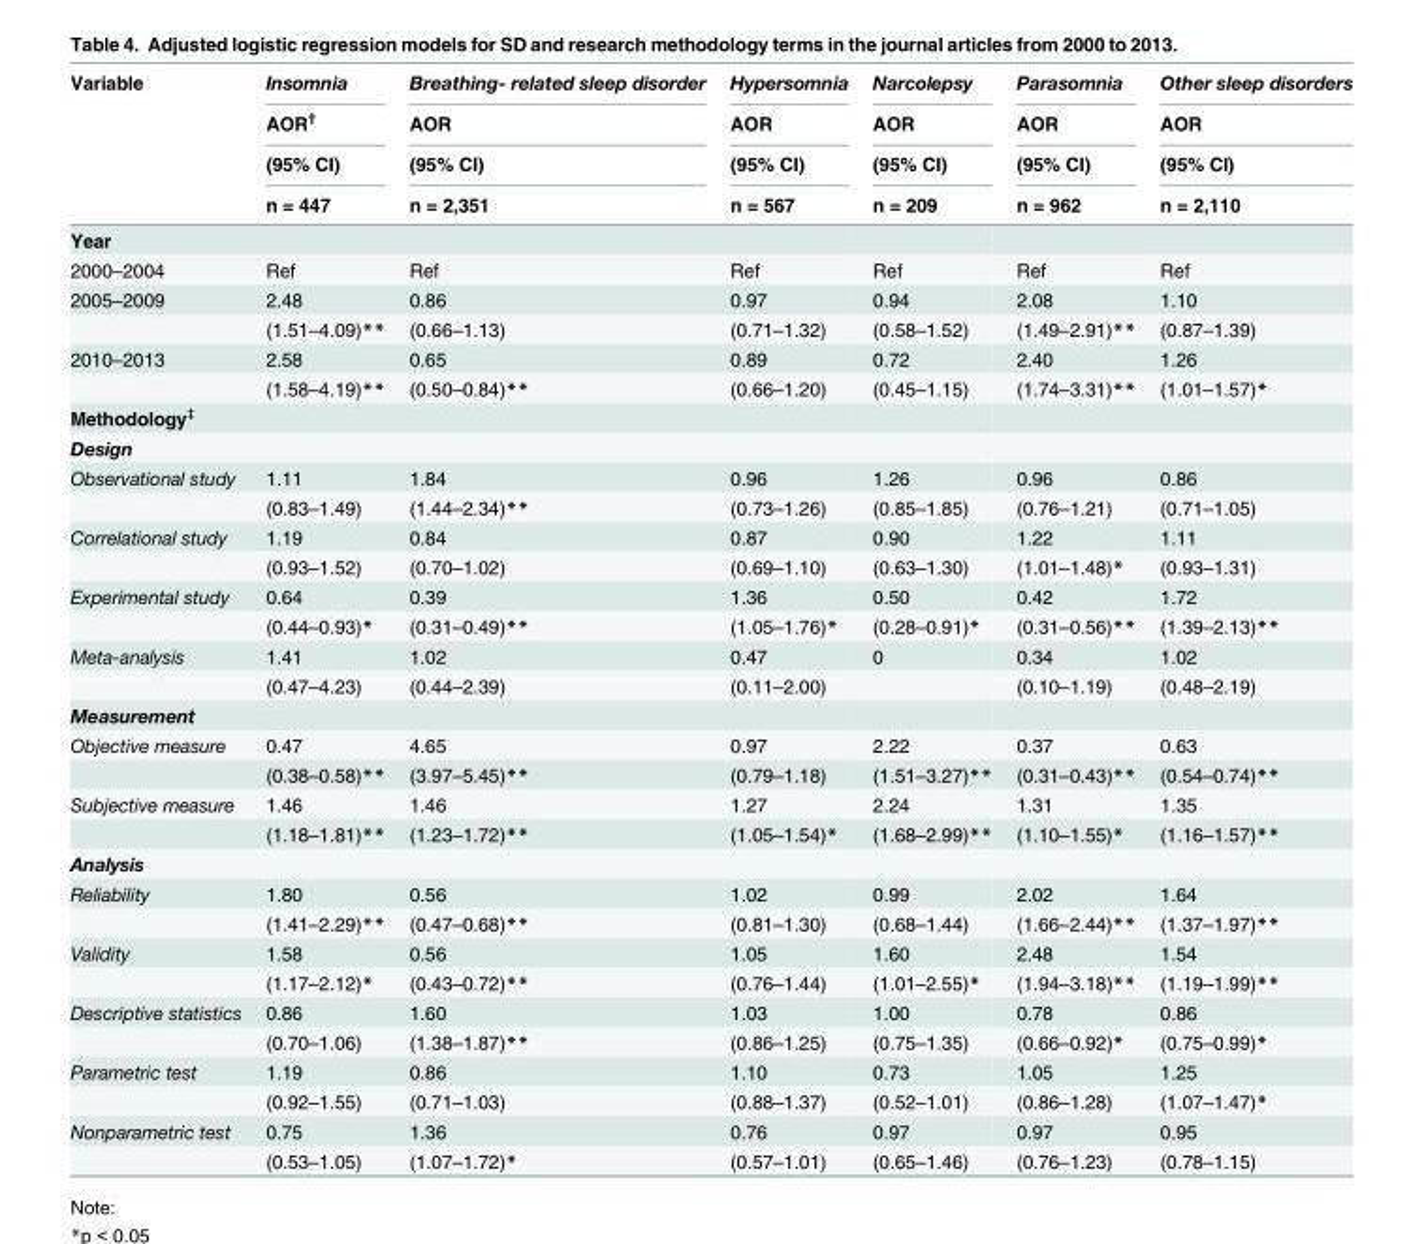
<table><thead><tr><td rowspan="4">Variable</td><td rowspan="4">Insomnia AOR<sup>†</sup> (95% CI) n = 447</td><td rowspan="4">Breathing- related sleep disorder AOR (95% CI) n = 2,351</td><td rowspan="4">Hypersomnia AOR (95% CI) n = 567</td><td rowspan="4">Narcolepsy AOR (95% CI) n = 209</td><td rowspan="4">Parasomnia AOR (95% CI) n = 962</td><td rowspan="4">Other sleep disorders AOR (95% CI) n = 2,110</td></tr><tr></tr><tr></tr><tr></tr></thead><tbody><tr><td colspan="7">Year</td></tr><tr><td>2000–2004</td><td>Ref</td><td>Ref</td><td>Ref</td><td>Ref</td><td>Ref</td><td>Ref</td></tr><tr><td rowspan="2">2005–2009</td><td>2.48</td><td>0.86</td><td>0.97</td><td>0.94</td><td>2.08</td><td>1.10</td></tr><tr><td>(1.51–4.09)**</td><td>(0.66–1.13)</td><td>(0.71–1.32)</td><td>(0.58–1.52)</td><td>(1.49–2.91)**</td><td>(0.87–1.39)</td></tr><tr><td rowspan="2">2010–2013</td><td>2.58</td><td>0.65</td><td>0.89</td><td>0.72</td><td>2.40</td><td>1.26</td></tr><tr><td>(1.58–4.19)**</td><td>(0.50–0.84)**</td><td>(0.66–1.20)</td><td>(0.45–1.15)</td><td>(1.74–3.31)**</td><td>(1.01–1.57)*</td></tr><tr><td colspan="7">Methodology<sup>‡</sup></td></tr><tr><td colspan="7">Design</td></tr><tr><td rowspan="2">Observational study</td><td>1.11</td><td>1.84</td><td>0.96</td><td>1.26</td><td>0.96</td><td>0.86</td></tr><tr><td>(0.83–1.49)</td><td>(1.44–2.34)**</td><td>(0.73–1.26)</td><td>(0.85–1.85)</td><td>(0.76–1.21)</td><td>(0.71–1.05)</td></tr><tr><td rowspan="2">Correlational study</td><td>1.19</td><td>0.84</td><td>0.87</td><td>0.90</td><td>1.22</td><td>1.11</td></tr><tr><td>(0.93–1.52)</td><td>(0.70–1.02)</td><td>(0.69–1.10)</td><td>(0.63–1.30)</td><td>(1.01–1.48)*</td><td>(0.93–1.31)</td></tr><tr><td rowspan="2">Experimental study</td><td>0.64</td><td>0.39</td><td>1.36</td><td>0.50</td><td>0.42</td><td>1.72</td></tr><tr><td>(0.44–0.93)*</td><td>(0.31–0.49)**</td><td>(1.05–1.76)*</td><td>(0.28–0.91)*</td><td>(0.31–0.56)**</td><td>(1.39–2.13)**</td></tr><tr><td rowspan="2">Meta-analysis</td><td>1.41</td><td>1.02</td><td>0.47</td><td>0</td><td>0.34</td><td>1.02</td></tr><tr><td>(0.47–4.23)</td><td>(0.44–2.39)</td><td>(0.11–2.00)</td><td></td><td>(0.10–1.19)</td><td>(0.48–2.19)</td></tr><tr><td colspan="7">Measurement</td></tr><tr><td rowspan="2">Objective measure</td><td>0.47</td><td>4.65</td><td>0.97</td><td>2.22</td><td>0.37</td><td>0.63</td></tr><tr><td>(0.38–0.58)**</td><td>(3.97–5.45)**</td><td>(0.79–1.18)</td><td>(1.51–3.27)**</td><td>(0.31–0.43)**</td><td>(0.54–0.74)**</td></tr><tr><td rowspan="2">Subjective measure</td><td>1.46</td><td>1.46</td><td>1.27</td><td>2.24</td><td>1.31</td><td>1.35</td></tr><tr><td>(1.18–1.81)**</td><td>(1.23–1.72)**</td><td>(1.05–1.54)*</td><td>(1.68–2.99)**</td><td>(1.10–1.55)*</td><td>(1.16–1.57)**</td></tr><tr><td colspan="7">Analysis</td></tr><tr><td rowspan="2">Reliability</td><td>1.80</td><td>0.56</td><td>1.02</td><td>0.99</td><td>2.02</td><td>1.64</td></tr><tr><td>(1.41–2.29)**</td><td>(0.47–0.68)**</td><td>(0.81–1.30)</td><td>(0.68–1.44)</td><td>(1.66–2.44)**</td><td>(1.37–1.97)**</td></tr><tr><td rowspan="2">Validity</td><td>1.58</td><td>0.56</td><td>1.05</td><td>1.60</td><td>2.48</td><td>1.54</td></tr><tr><td>(1.17–2.12)*</td><td>(0.43–0.72)**</td><td>(0.76–1.44)</td><td>(1.01–2.55)*</td><td>(1.94–3.18)**</td><td>(1.19–1.99)**</td></tr><tr><td rowspan="2">Descriptive statistics</td><td>0.86</td><td>1.60</td><td>1.03</td><td>1.00</td><td>0.78</td><td>0.86</td></tr><tr><td>(0.70–1.06)</td><td>(1.38–1.87)**</td><td>(0.86–1.25)</td><td>(0.75–1.35)</td><td>(0.66–0.92)*</td><td>(0.75–0.99)*</td></tr><tr><td rowspan="2">Parametric test</td><td>1.19</td><td>0.86</td><td>1.10</td><td>0.73</td><td>1.05</td><td>1.25</td></tr><tr><td>(0.92–1.55)</td><td>(0.71–1.03)</td><td>(0.88–1.37)</td><td>(0.52–1.01)</td><td>(0.86–1.28)</td><td>(1.07–1.47)*</td></tr><tr><td rowspan="2">Nonparametric test</td><td>0.75</td><td>1.36</td><td>0.76</td><td>0.97</td><td>0.97</td><td>0.95</td></tr><tr><td>(0.53–1.05)</td><td>(1.07–1.72)*</td><td>(0.57–1.01)</td><td>(0.65–1.46)</td><td>(0.76–1.23)</td><td>(0.78–1.15)</td></tr></tbody></table>